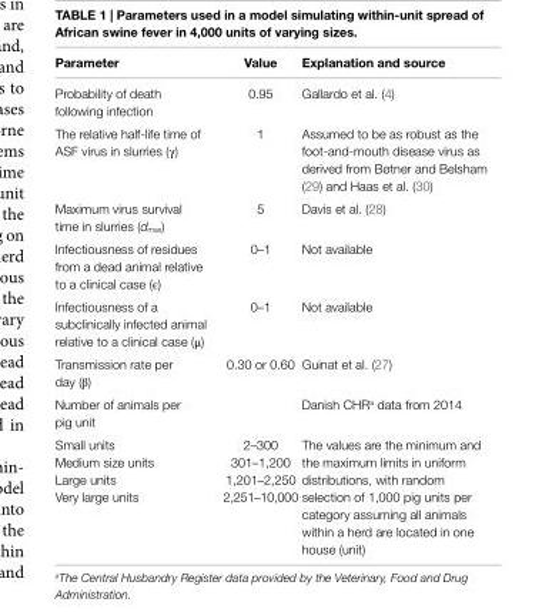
<table><thead><tr><td>Parameter</td><td>Value</td><td>explanation and source</td></tr></thead><tbody><tr><td>Probability of death following infection</td><td>0.95</td><td>Gallardo et al. (4)</td></tr><tr><td>The relative half-life time of ASF virus in slurries (γ)</td><td>1</td><td>Assumed to be as robust as the foot-and-mouth disease virus as derived from Bøtner and Belsham (29) and Haas et al. (30)</td></tr><tr><td>Maximum virus survival time in slurries (d<sub>max</sub>)</td><td>5</td><td>Davis et al. (28)</td></tr><tr><td>Infectiousness of residues from a dead animal relative to a clinical case (ϵ)</td><td>0–1</td><td>Not available</td></tr><tr><td>Infectiousness of a subclinically infected animal relative to a clinical case (μ)</td><td>0–1</td><td>Not available</td></tr><tr><td>Transmission rate per day (β)</td><td>0.30 or 0.60</td><td>Guinat et al. (27)</td></tr><tr><td>Number of animals per pig unit</td><td></td><td>Danish CHR<sup>a</sup> data from 2014</td></tr><tr><td>Small units</td><td>2–300</td><td rowspan="4">The values are the minimum and the maximum limits in uniform distributions, with random selection of 1,000 pig units per category assuming all animals within a herd are located in one house (unit)</td></tr><tr><td>Medium size units</td><td>301–1,200</td></tr><tr><td>Large units</td><td>1,201–2,250</td></tr><tr><td>Very large units</td><td>2,251–10,000</td></tr></tbody></table>